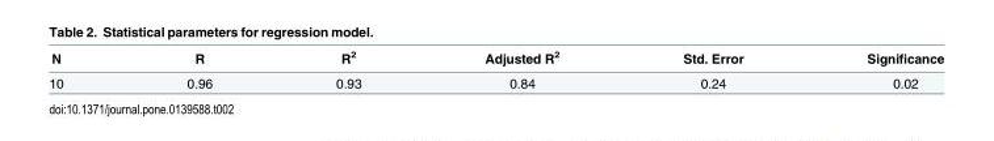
<table><thead><tr><td>N</td><td>R</td><td>R<sup>2</sup></td><td>Adjusted R<sup>2</sup></td><td>Std. Error</td><td>Significance</td></tr></thead><tbody><tr><td>10</td><td>0.96</td><td>0.93</td><td>0.84</td><td>0.24</td><td>0.02</td></tr></tbody></table>